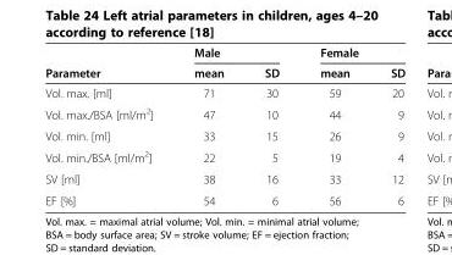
<table><thead><tr><td rowspan="2">Parameter</td><td colspan="2">Male</td><td colspan="2">Female</td></tr><tr><td>mean</td><td>SD</td><td>mean</td><td>SD</td></tr></thead><tbody><tr><td>Vol. max. [ml]</td><td>71</td><td>30</td><td>59</td><td>20</td></tr><tr><td>Vol. max./BSA [ml/m<sup>2</sup>]</td><td>47</td><td>10</td><td>44</td><td>9</td></tr><tr><td>Vol. min. [ml]</td><td>33</td><td>15</td><td>26</td><td>9</td></tr><tr><td>Vol. min./BSA [ml/m<sup>2</sup>]</td><td>22</td><td>5</td><td>19</td><td>4</td></tr><tr><td>SV [ml]</td><td>38</td><td>16</td><td>33</td><td>12</td></tr><tr><td>EF [%]</td><td>54</td><td>6</td><td>56</td><td>6</td></tr></tbody></table>